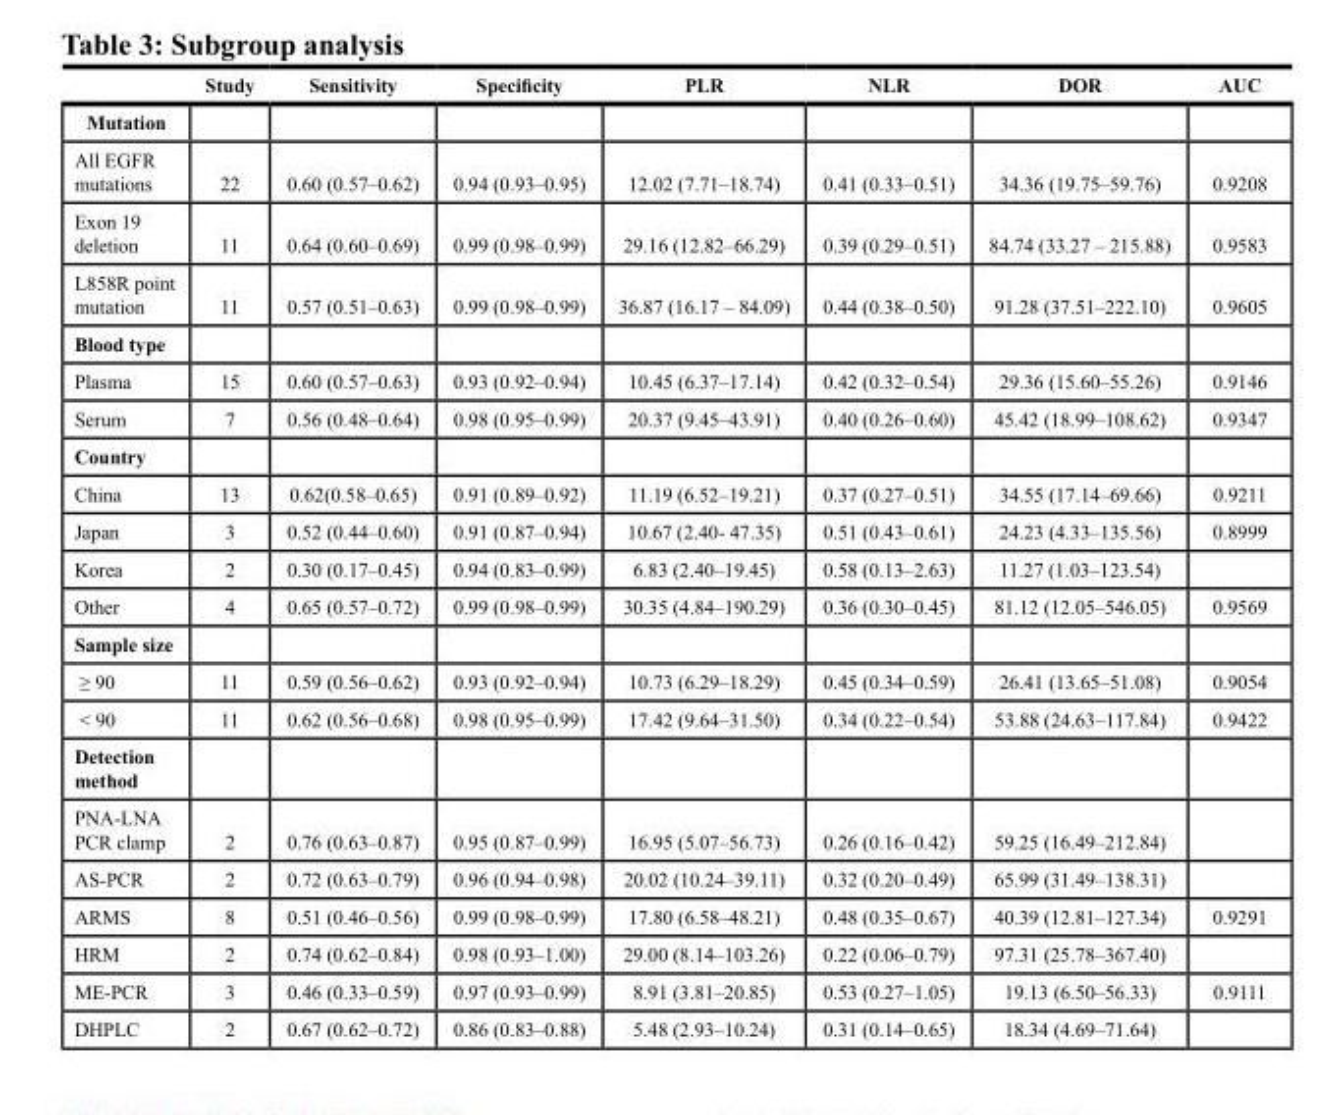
<table><thead><tr><td></td><td>Study</td><td>Sensitivity</td><td>Specificity</td><td>PLR</td><td>NLR</td><td>DOR</td><td>AUC</td></tr></thead><tbody><tr><td colspan="8">Mutation</td></tr><tr><td>All EGFR mutations</td><td>22</td><td>0.60 (0.57–0.62)</td><td>0.94 (0.93–0.95)</td><td>12.02 (7.71–18.74)</td><td>0.41 (0.33–0.51)</td><td>34.36 (19.75–59.76)</td><td>0.9208</td></tr><tr><td>Exon 19 deletion</td><td>11</td><td>0.64 (0.60–0.69)</td><td>0.99 (0.98–0.99)</td><td>29.16 (12.82–66.29)</td><td>0.39 (0.29–0.51)</td><td>84.74 (33.27 – 215.88)</td><td>0.9583</td></tr><tr><td>L858R point mutation</td><td>11</td><td>0.57 (0.51–0.63)</td><td>0.99 (0.98–0.99)</td><td>36.87 (16.17 – 84.09)</td><td>0.44 (0.38–0.50)</td><td>91.28 (37.51–222.10)</td><td>0.9605</td></tr><tr><td colspan="8">Blood type</td></tr><tr><td>Plasma</td><td>15</td><td>0.60 (0.57–0.63)</td><td>0.93 (0.92–0.94)</td><td>10.45 (6.37–17.14)</td><td>0.42 (0.32–0.54)</td><td>29.36 (15.60–55.26)</td><td>0.9146</td></tr><tr><td>Serum</td><td>7</td><td>0.56 (0.48–0.64)</td><td>0.98 (0.95–0.99)</td><td>20.37 (9.45–43.91)</td><td>0.40 (0.26–0.60)</td><td>45.42 (18.99–108.62)</td><td>0.9347</td></tr><tr><td colspan="8">Country</td></tr><tr><td>China</td><td>13</td><td>0.62(0.58–0.65)</td><td>0.91 (0.89–0.92)</td><td>11.19 (6.52–19.21)</td><td>0.37 (0.27–0.51)</td><td>34.55 (17.14–69.66)</td><td>0.9211</td></tr><tr><td>Japan</td><td>3</td><td>0.52 (0.44–0.60)</td><td>0.91 (0.87–0.94)</td><td>10.67 (2.40- 47.35)</td><td>0.51 (0.43–0.61)</td><td>24.23 (4.33–135.56)</td><td>0.8999</td></tr><tr><td>Korea</td><td>2</td><td>0.30 (0.17–0.45)</td><td>0.94 (0.83–0.99)</td><td>6.83 (2.40–19.45)</td><td>0.58 (0.13–2.63)</td><td>11.27 (1.03–123.54)</td><td></td></tr><tr><td>Other</td><td>4</td><td>0.65 (0.57–0.72)</td><td>0.99 (0.98–0.99)</td><td>30.35 (4.84–190.29)</td><td>0.36 (0.30–0.45)</td><td>81.12 (12.05–546.05)</td><td>0.9569</td></tr><tr><td colspan="8">Sample size</td></tr><tr><td>≥ 90</td><td>11</td><td>0.59 (0.56–0.62)</td><td>0.93 (0.92–0.94)</td><td>10.73 (6.29–18.29)</td><td>0.45 (0.34–0.59)</td><td>26.41 (13.65–51.08)</td><td>0.9054</td></tr><tr><td>&lt; 90</td><td>11</td><td>0.62 (0.56–0.68)</td><td>0.98 (0.95–0.99)</td><td>17.42 (9.64–31.50)</td><td>0.34 (0.22–0.54)</td><td>53.88 (24.63–117.84)</td><td>0.9422</td></tr><tr><td colspan="8">Detection method</td></tr><tr><td>PNA-LNA PCR clamp</td><td>2</td><td>0.76 (0.63–0.87)</td><td>0.95 (0.87–0.99)</td><td>16.95 (5.07–56.73)</td><td>0.26 (0.16–0.42)</td><td>59.25 (16.49–212.84)</td><td></td></tr><tr><td>AS-PCR</td><td>2</td><td>0.72 (0.63–0.79)</td><td>0.96 (0.94–0.98)</td><td>20.02 (10.24–39.11)</td><td>0.32 (0.20–0.49)</td><td>65.99 (31.49–138.31)</td><td></td></tr><tr><td>ARMS</td><td>8</td><td>0.51 (0.46–0.56)</td><td>0.99 (0.98–0.99)</td><td>17.80 (6.58–48.21)</td><td>0.48 (0.35–0.67)</td><td>40.39 (12.81–127.34)</td><td>0.9291</td></tr><tr><td>HRM</td><td>2</td><td>0.74 (0.62–0.84)</td><td>0.98 (0.93–1.00)</td><td>29.00 (8.14–103.26)</td><td>0.22 (0.06–0.79)</td><td>97.31 (25.78–367.40)</td><td></td></tr><tr><td>ME-PCR</td><td>3</td><td>0.46 (0.33–0.59)</td><td>0.97 (0.93–0.99)</td><td>8.91 (3.81–20.85)</td><td>0.53 (0.27–1.05)</td><td>19.13 (6.50–56.33)</td><td>0.9111</td></tr><tr><td>DHPLC</td><td>2</td><td>0.67 (0.62–0.72)</td><td>0.86 (0.83–0.88)</td><td>5.48 (2.93–10.24)</td><td>0.31 (0.14–0.65)</td><td>18.34 (4.69–71.64)</td><td></td></tr></tbody></table>